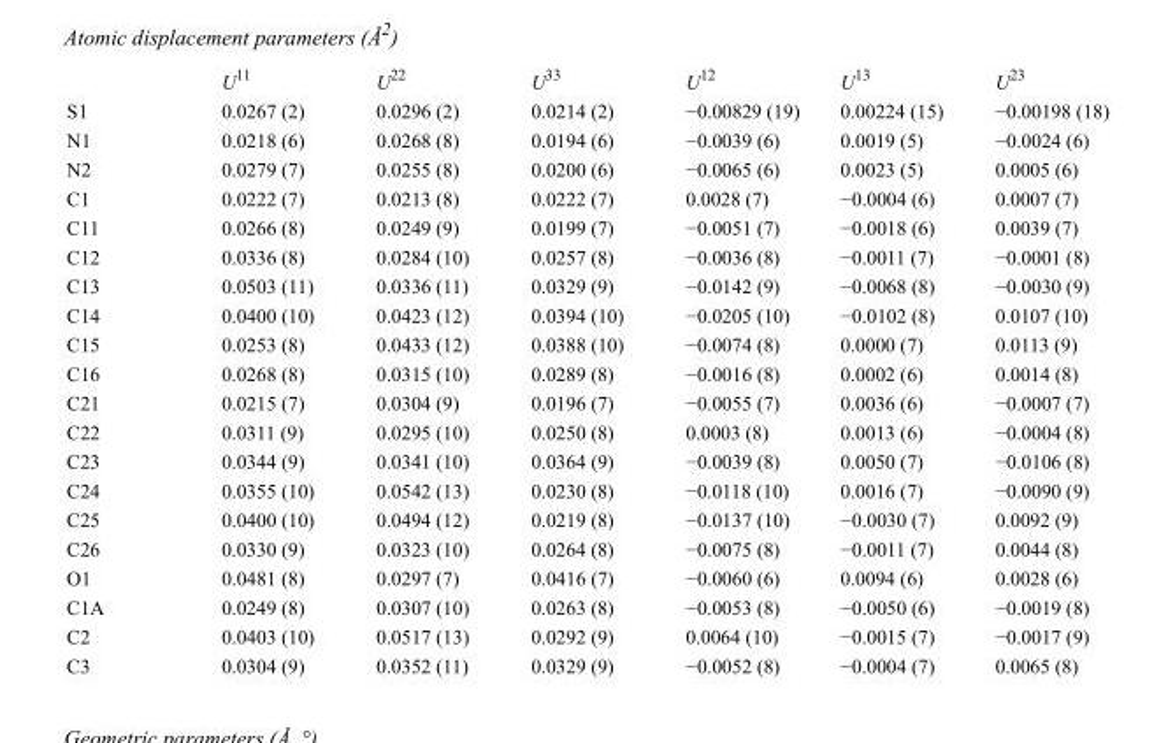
<table><thead><tr><td></td><td>U<sup>11</sup></td><td>U<sup>22</sup></td><td>U<sup>33</sup></td><td>U<sup>12</sup></td><td>U<sup>13</sup></td><td>U<sup>23</sup></td></tr></thead><tbody><tr><td>S1</td><td>0.0267 (2)</td><td>0.0296 (2)</td><td>0.0214 (2)</td><td>−0.00829 (19)</td><td>0.00224 (15)</td><td>−0.00198 (18)</td></tr><tr><td>N1</td><td>0.0218 (6)</td><td>0.0268 (8)</td><td>0.0194 (6)</td><td>−0.0039 (6)</td><td>0.0019 (5)</td><td>−0.0024 (6)</td></tr><tr><td>N2</td><td>0.0279 (7)</td><td>0.0255 (8)</td><td>0.0200 (6)</td><td>−0.0065 (6)</td><td>0.0023 (5)</td><td>0.0005 (6)</td></tr><tr><td>C1</td><td>0.0222 (7)</td><td>0.0213 (8)</td><td>0.0222 (7)</td><td>0.0028 (7)</td><td>−0.0004 (6)</td><td>0.0007 (7)</td></tr><tr><td>C11</td><td>0.0266 (8)</td><td>0.0249 (9)</td><td>0.0199 (7)</td><td>−0.0051 (7)</td><td>−0.0018 (6)</td><td>0.0039 (7)</td></tr><tr><td>C12</td><td>0.0336 (8)</td><td>0.0284 (10)</td><td>0.0257 (8)</td><td>−0.0036 (8)</td><td>−0.0011 (7)</td><td>−0.0001 (8)</td></tr><tr><td>C13</td><td>0.0503 (11)</td><td>0.0336 (11)</td><td>0.0329 (9)</td><td>−0.0142 (9)</td><td>−0.0068 (8)</td><td>−0.0030 (9)</td></tr><tr><td>C14</td><td>0.0400 (10)</td><td>0.0423 (12)</td><td>0.0394 (10)</td><td>−0.0205 (10)</td><td>−0.0102 (8)</td><td>0.0107 (10)</td></tr><tr><td>C15</td><td>0.0253 (8)</td><td>0.0433 (12)</td><td>0.0388 (10)</td><td>−0.0074 (8)</td><td>0.0000 (7)</td><td>0.0113 (9)</td></tr><tr><td>C16</td><td>0.0268 (8)</td><td>0.0315 (10)</td><td>0.0289 (8)</td><td>−0.0016 (8)</td><td>0.0002 (6)</td><td>0.0014 (8)</td></tr><tr><td>C21</td><td>0.0215 (7)</td><td>0.0304 (9)</td><td>0.0196 (7)</td><td>−0.0055 (7)</td><td>0.0036 (6)</td><td>−0.0007 (7)</td></tr><tr><td>C22</td><td>0.0311 (9)</td><td>0.0295 (10)</td><td>0.0250 (8)</td><td>0.0003 (8)</td><td>0.0013 (6)</td><td>−0.0004 (8)</td></tr><tr><td>C23</td><td>0.0344 (9)</td><td>0.0341 (10)</td><td>0.0364 (9)</td><td>−0.0039 (8)</td><td>0.0050 (7)</td><td>−0.0106 (8)</td></tr><tr><td>C24</td><td>0.0355 (10)</td><td>0.0542 (13)</td><td>0.0230 (8)</td><td>−0.0118 (10)</td><td>0.0016 (7)</td><td>−0.0090 (9)</td></tr><tr><td>C25</td><td>0.0400 (10)</td><td>0.0494 (12)</td><td>0.0219 (8)</td><td>−0.0137 (10)</td><td>−0.0030 (7)</td><td>0.0092 (9)</td></tr><tr><td>C26</td><td>0.0330 (9)</td><td>0.0323 (10)</td><td>0.0264 (8)</td><td>−0.0075 (8)</td><td>−0.0011 (7)</td><td>0.0044 (8)</td></tr><tr><td>O1</td><td>0.0481 (8)</td><td>0.0297 (7)</td><td>0.0416 (7)</td><td>−0.0060 (6)</td><td>0.0094 (6)</td><td>0.0028 (6)</td></tr><tr><td>C1A</td><td>0.0249 (8)</td><td>0.0307 (10)</td><td>0.0263 (8)</td><td>−0.0053 (8)</td><td>−0.0050 (6)</td><td>−0.0019 (8)</td></tr><tr><td>C2</td><td>0.0403 (10)</td><td>0.0517 (13)</td><td>0.0292 (9)</td><td>0.0064 (10)</td><td>−0.0015 (7)</td><td>−0.0017 (9)</td></tr><tr><td>C3</td><td>0.0304 (9)</td><td>0.0352 (11)</td><td>0.0329 (9)</td><td>−0.0052 (8)</td><td>−0.0004 (7)</td><td>0.0065 (8)</td></tr></tbody></table>